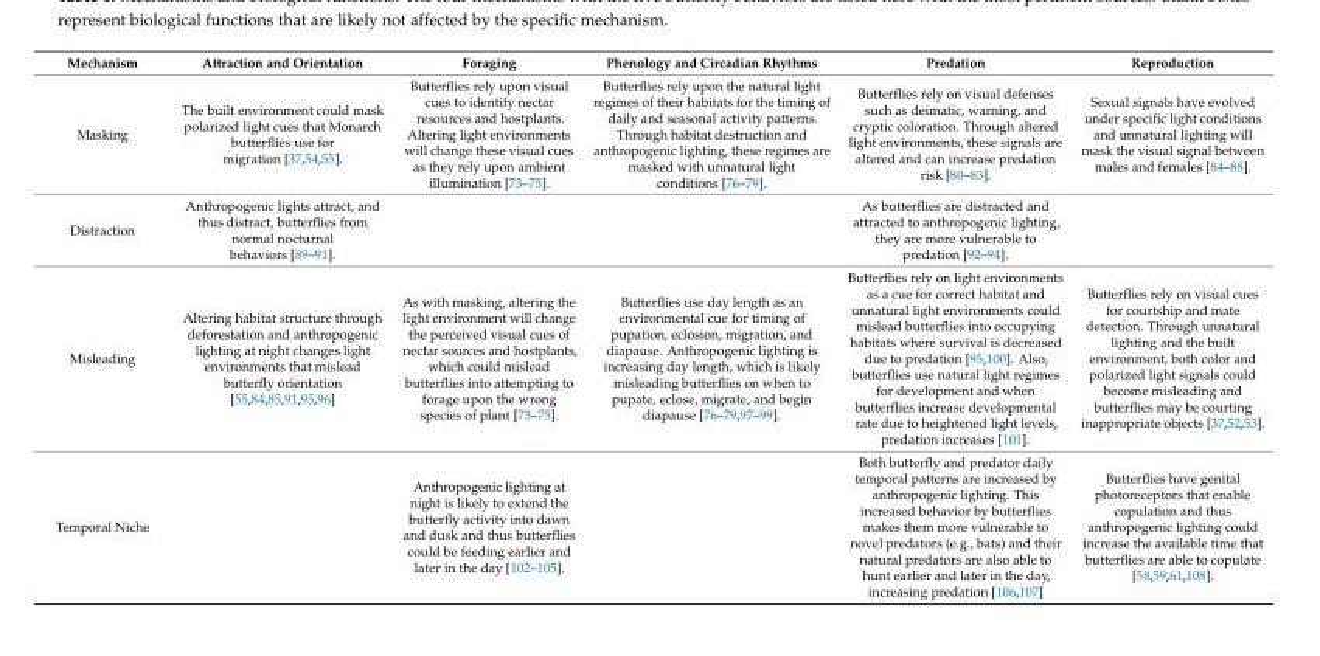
<table><thead><tr><td>Mechanism</td><td>Attraction and Orientation</td><td>Foraging</td><td>Phenology and Circadian Rhythms</td><td>Predation</td><td>Reproduction</td></tr></thead><tbody><tr><td>Masking</td><td>The built environment could mask polarized light cues that Monarch butterflies use for migration [37,54,55].</td><td>Butterflies rely upon visual cues to identify nectar resources and hostplants. Altering light environments will change these visual cues as they rely upon ambient illumination [73–75].</td><td>Butterflies rely upon the natural light regimes of their habitats for the timing of daily and seasonal activity patterns. Through habitat destruction and anthropogenic lighting, these regimes are masked with unnatural light conditions [76–79].</td><td>Butterflies rely on visual defenses such as deimatic, warning, and cryptic coloration. Through altered light environments, these signals are altered and can increase predation risk [80–83].</td><td>Sexual signals have evolved under specific light conditions and unnatural lighting will mask the visual signal between males and females [84–88].</td></tr><tr><td>Distraction</td><td>Anthropogenic lights attract, and thus distract, butterflies from normal nocturnal behaviors [89–91].</td><td></td><td></td><td>As butterflies are distracted and attracted to anthropogenic lighting, they are more vulnerable to predation [92–94].</td><td></td></tr><tr><td>Misleading</td><td>Altering habitat structure through deforestation and anthropogenic lighting at night changes light environments that mislead butterfly orientation [55,84,85,91,95,96]</td><td>As with masking, altering the light environment will change the perceived visual cues of nectar sources and hostplants, which could mislead butterflies into attempting to forage upon the wrong species of plant [73–75].</td><td>Butterflies use day length as an environmental cue for timing of pupation, eclosion, migration, and diapause. Anthropogenic lighting is increasing day length, which is likely misleading butterflies on when to pupate, eclose, migrate, and begin diapause [76–79,97–99].</td><td>Butterflies rely on light environments as a cue for correct habitat and unnatural light environments could mislead butterflies into occupying habitats where survival is decreased due to predation [95,100]. Also, butterflies use natural light regimes for development and when butterflies increase developmental rate due to heightened light levels, predation increases [101].</td><td>Butterflies rely on visual cues for courtship and mate detection. Through unnatural lighting and the built environment, both color and polarized light signals could become misleading and butterflies may be courting inappropriate objects [37,52,53].</td></tr><tr><td>Temporal Niche</td><td></td><td>Anthropogenic lighting at night is likely to extend the butterfly activity into dawn and dusk and thus butterflies could be feeding earlier and later in the day [102–105].</td><td></td><td>Both butterfly and predator daily temporal patterns are increased by anthropogenic lighting. This increased behavior by butterflies makes them more vulnerable to novel predators (e.g., bats) and their natural predators are also able to hunt earlier and later in the day, increasing predation [106,107]</td><td>Butterflies have genital photoreceptors that enable copulation and thus anthropogenic lighting could increase the available time that butterflies are able to copulate [58,59,61,108].</td></tr></tbody></table>